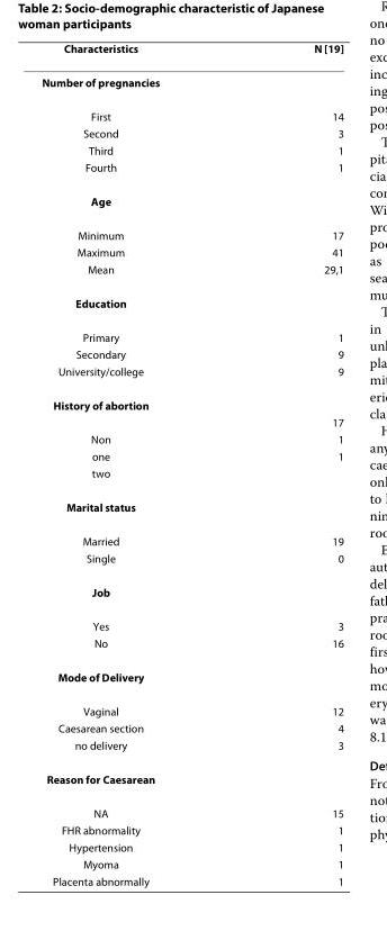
<table><thead><tr><td>Characteristics</td><td>N [19]</td></tr></thead><tbody><tr><td colspan="2">Number of pregnancies</td></tr><tr><td>First</td><td>14</td></tr><tr><td>Second</td><td>3</td></tr><tr><td>Third</td><td>1</td></tr><tr><td>Fourth</td><td>1</td></tr><tr><td colspan="2">Age</td></tr><tr><td>Minimum</td><td>17</td></tr><tr><td>Maximum</td><td>41</td></tr><tr><td>Mean</td><td>29,1</td></tr><tr><td colspan="2">Education</td></tr><tr><td>Primary</td><td>1</td></tr><tr><td>Secondary</td><td>9</td></tr><tr><td>University/college</td><td>9</td></tr><tr><td colspan="2">History of abortion</td></tr><tr><td></td><td>17</td></tr><tr><td>Non</td><td>1</td></tr><tr><td>one</td><td>1</td></tr><tr><td colspan="2">two</td></tr><tr><td colspan="2">Marital status</td></tr><tr><td>Married</td><td>19</td></tr><tr><td>Single</td><td>0</td></tr><tr><td colspan="2">Job</td></tr><tr><td>Yes</td><td>3</td></tr><tr><td>No</td><td>16</td></tr><tr><td colspan="2">Mode of Delivery</td></tr><tr><td>Vaginal</td><td>12</td></tr><tr><td>Caesarean section</td><td>4</td></tr><tr><td>no delivery</td><td>3</td></tr><tr><td colspan="2">Reason for Caesarean</td></tr><tr><td>NA</td><td>15</td></tr><tr><td>FHR abnormality</td><td>1</td></tr><tr><td>Hypertension</td><td>1</td></tr><tr><td>Myoma</td><td>1</td></tr><tr><td>Placenta abnormally</td><td>1</td></tr></tbody></table>